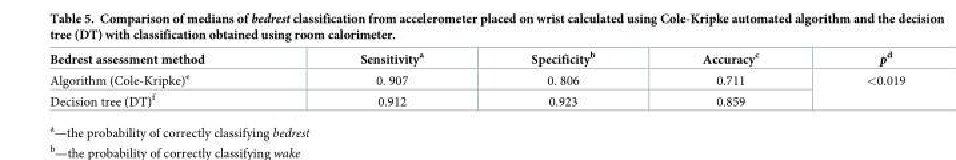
<table><thead><tr><td>Bedrest assessment method</td><td>Sensitivity<sup>a</sup></td><td>Specificity<sup>b</sup></td><td>Accuracy<sup>c</sup></td><td>p<sup>d</sup></td></tr></thead><tbody><tr><td>Algorithm (Cole-Kripke)<sup>e</sup></td><td>0. 907</td><td>0. 806</td><td>0.711</td><td rowspan="2">&lt;0.019</td></tr><tr><td>Decision tree (DT)<sup>f</sup></td><td>0.912</td><td>0.923</td><td>0.859</td></tr></tbody></table>